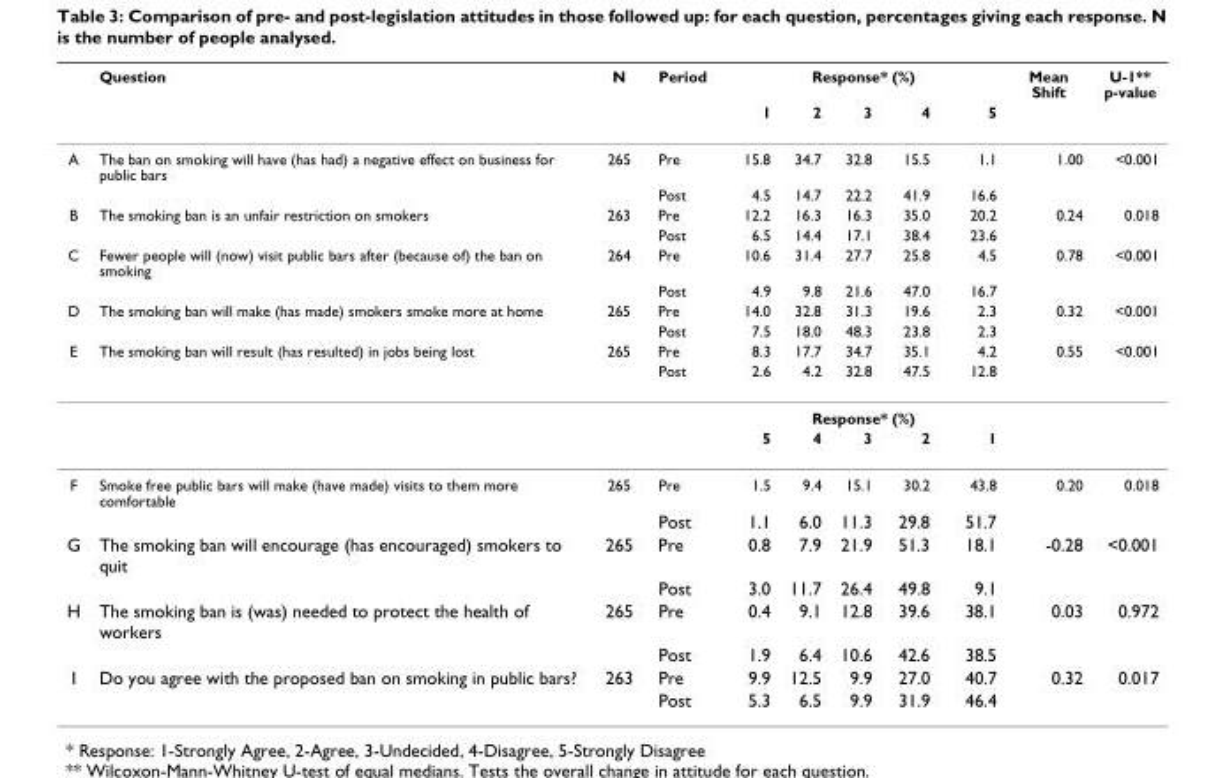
<table><thead><tr><td rowspan="2"></td><td rowspan="2">Question</td><td rowspan="2">N</td><td rowspan="2">Period</td><td colspan="5">Response* (%)</td><td rowspan="2">Mean Shift</td><td rowspan="2">U-1** p-value</td></tr><tr><td>1</td><td>2</td><td>3</td><td>4</td><td>5</td></tr></thead><tbody><tr><td rowspan="2">A</td><td>The ban on smoking will have (has had) a negative effect on business for public bars</td><td>265</td><td>Pre</td><td>15.8</td><td>34.7</td><td>32.8</td><td>15.5</td><td>1.1</td><td>1.00</td><td>&lt;0.001</td></tr><tr><td></td><td></td><td>Post</td><td>4.5</td><td>14.7</td><td>22.2</td><td>41.9</td><td>16.6</td><td></td><td></td></tr><tr><td rowspan="2">B</td><td>The smoking ban is an unfair restriction on smokers</td><td>263</td><td>Pre</td><td>12.2</td><td>16.3</td><td>16.3</td><td>35.0</td><td>20.2</td><td>0.24</td><td>0.018</td></tr><tr><td></td><td></td><td>Post</td><td>6.5</td><td>14.4</td><td>17.1</td><td>38.4</td><td>23.6</td><td></td><td></td></tr><tr><td rowspan="2">C</td><td>Fewer people will (now) visit public bars after (because of) the ban on smoking</td><td>264</td><td>Pre</td><td>10.6</td><td>31.4</td><td>27.7</td><td>25.8</td><td>4.5</td><td>0.78</td><td>&lt;0.001</td></tr><tr><td></td><td></td><td>Post</td><td>4.9</td><td>9.8</td><td>21.6</td><td>47.0</td><td>16.7</td><td></td><td></td></tr><tr><td rowspan="2">D</td><td>The smoking ban will make (has made) smokers smoke more at home</td><td>265</td><td>Pre</td><td>14.0</td><td>32.8</td><td>31.3</td><td>19.6</td><td>2.3</td><td>0.32</td><td>&lt;0.001</td></tr><tr><td></td><td></td><td>Post</td><td>7.5</td><td>18.0</td><td>48.3</td><td>23.8</td><td>2.3</td><td></td><td></td></tr><tr><td rowspan="4">E</td><td>The smoking ban will result (has resulted) in jobs being lost</td><td>265</td><td>Pre</td><td>8.3</td><td>17.7</td><td>34.7</td><td>35.1</td><td>4.2</td><td>0.55</td><td>&lt;0.001</td></tr><tr><td></td><td></td><td>Post</td><td>2.6</td><td>4.2</td><td>32.8</td><td>47.5</td><td>12.8</td><td></td><td></td></tr><tr><td></td><td></td><td></td><td colspan="5">Response* (%)</td><td></td><td></td></tr><tr><td></td><td></td><td></td><td>5</td><td>4</td><td>3</td><td>2</td><td>1</td><td></td><td></td></tr><tr><td rowspan="2">F</td><td>Smoke free public bars will make (have made) visits to them more comfortable</td><td>265</td><td>Pre</td><td>1.5</td><td>9.4</td><td>15.1</td><td>30.2</td><td>43.8</td><td>0.20</td><td>0.018</td></tr><tr><td></td><td></td><td>Post</td><td>1.1</td><td>6.0</td><td>11.3</td><td>29.8</td><td>51.7</td><td></td><td></td></tr><tr><td rowspan="2">G</td><td>The smoking ban will encourage (has encouraged) smokers to quit</td><td>265</td><td>Pre</td><td>0.8</td><td>7.9</td><td>21.9</td><td>51.3</td><td>18.1</td><td>-0.28</td><td>&lt;0.001</td></tr><tr><td></td><td></td><td>Post</td><td>3.0</td><td>11.7</td><td>26.4</td><td>49.8</td><td>9.1</td><td></td><td></td></tr><tr><td rowspan="2">H</td><td>The smoking ban is (was) needed to protect the health of workers</td><td>265</td><td>Pre</td><td>0.4</td><td>9.1</td><td>12.8</td><td>39.6</td><td>38.1</td><td>0.03</td><td>0.972</td></tr><tr><td></td><td></td><td>Post</td><td>1.9</td><td>6.4</td><td>10.6</td><td>42.6</td><td>38.5</td><td></td><td></td></tr><tr><td rowspan="2">I</td><td>Do you agree with the proposed ban on smoking in public bars?</td><td>263</td><td>Pre</td><td>9.9</td><td>12.5</td><td>9.9</td><td>27.0</td><td>40.7</td><td>0.32</td><td>0.017</td></tr><tr><td></td><td></td><td>Post</td><td>5.3</td><td>6.5</td><td>9.9</td><td>31.9</td><td>46.4</td><td></td><td></td></tr></tbody></table>